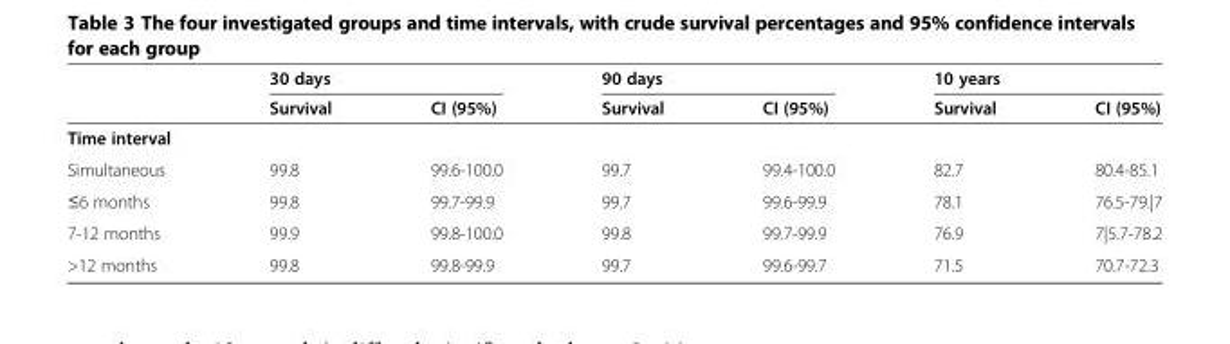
<table><thead><tr><td rowspan="2"></td><td colspan="2">30 days</td><td colspan="2">90 days</td><td colspan="2">10 years</td></tr><tr><td>Survival</td><td>CI (95%)</td><td>Survival</td><td>CI (95%)</td><td>Survival</td><td>CI (95%)</td></tr></thead><tbody><tr><td colspan="7">Time interval</td></tr><tr><td>Simultaneous</td><td>99.8</td><td>99.6-100.0</td><td>99.7</td><td>99.4-100.0</td><td>82.7</td><td>80.4-85.1</td></tr><tr><td>≤6 months</td><td>99.8</td><td>99.7-99.9</td><td>99.7</td><td>99.6-99.9</td><td>78.1</td><td>76.5-79.|7</td></tr><tr><td>7-12 months</td><td>99.9</td><td>99.8-100.0</td><td>99.8</td><td>99.7-99.9</td><td>76.9</td><td>7|5.7-78.2</td></tr><tr><td>&gt;12 months</td><td>99.8</td><td>99.8-99.9</td><td>99.7</td><td>99.6-99.7</td><td>71.5</td><td>70.7-72.3</td></tr></tbody></table>